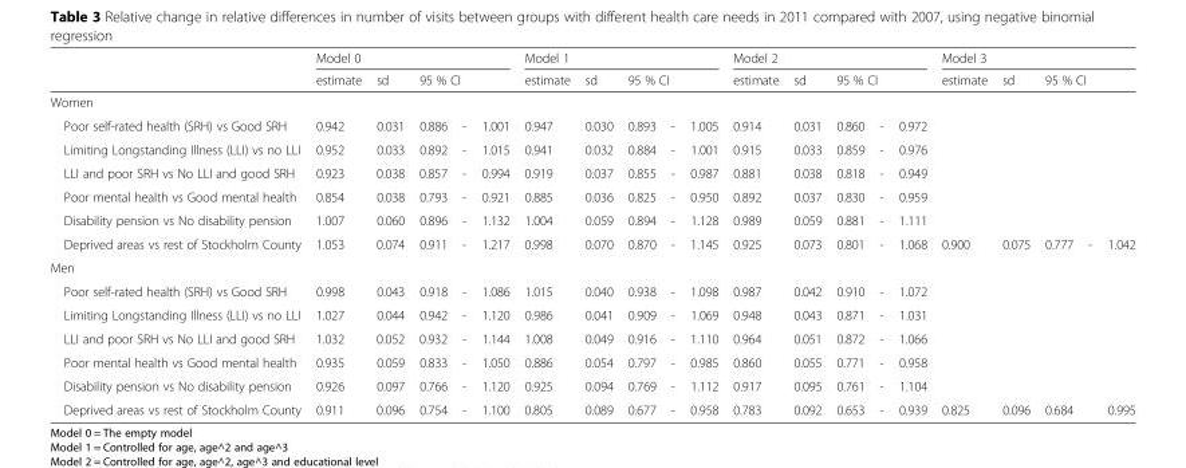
<table><thead><tr><td rowspan="3">Women</td><td colspan="5">Model 0</td><td colspan="5">Model 1</td><td colspan="5">Model 2</td><td colspan="5">Model 3</td></tr><tr><td rowspan="2">estimate</td><td rowspan="2">sd</td><td colspan="3">95 % CI</td><td rowspan="2">estimate</td><td rowspan="2">sd</td><td colspan="3">95 % CI</td><td rowspan="2">estimate</td><td rowspan="2">sd</td><td colspan="3">95 % CI</td><td rowspan="2">estimate</td><td rowspan="2">sd</td><td colspan="3">95 % CI</td></tr><tr><td></td><td></td><td></td><td></td><td></td><td></td><td></td><td></td><td></td><td></td><td></td><td></td></tr></thead><tbody><tr><td>Poor self-rated health (SRH) vs Good SRH</td><td>0.942</td><td>0.031</td><td>0.886</td><td>-</td><td>1.001</td><td>0.947</td><td>0.030</td><td>0.893</td><td>-</td><td>1.005</td><td>0.914</td><td>0.031</td><td>0.860</td><td>-</td><td>0.972</td><td></td><td></td><td></td><td></td><td></td></tr><tr><td>Limiting Longstanding Illness (LLI) vs no LLI</td><td>0.952</td><td>0.033</td><td>0.892</td><td>-</td><td>1.015</td><td>0.941</td><td>0.032</td><td>0.884</td><td>-</td><td>1.001</td><td>0.915</td><td>0.033</td><td>0.859</td><td>-</td><td>0.976</td><td></td><td></td><td></td><td></td><td></td></tr><tr><td>LLI and poor SRH vs No LLI and good SRH</td><td>0.923</td><td>0.038</td><td>0.857</td><td>-</td><td>0.994</td><td>0.919</td><td>0.037</td><td>0.855</td><td>-</td><td>0.987</td><td>0.881</td><td>0.038</td><td>0.818</td><td>-</td><td>0.949</td><td></td><td></td><td></td><td></td><td></td></tr><tr><td>Poor mental health vs Good mental health</td><td>0.854</td><td>0.038</td><td>0.793</td><td>-</td><td>0.921</td><td>0.885</td><td>0.036</td><td>0.825</td><td>-</td><td>0.950</td><td>0.892</td><td>0.037</td><td>0.830</td><td>-</td><td>0.959</td><td></td><td></td><td></td><td></td><td></td></tr><tr><td>Disability pension vs No disability pension</td><td>1.007</td><td>0.060</td><td>0.896</td><td>-</td><td>1.132</td><td>1.004</td><td>0.059</td><td>0.894</td><td>-</td><td>1.128</td><td>0.989</td><td>0.059</td><td>0.881</td><td>-</td><td>1.111</td><td></td><td></td><td></td><td></td><td></td></tr><tr><td>Deprived areas vs rest of Stockholm County</td><td>1.053</td><td>0.074</td><td>0.911</td><td>-</td><td>1.217</td><td>0.998</td><td>0.070</td><td>0.870</td><td>-</td><td>1.145</td><td>0.925</td><td>0.073</td><td>0.801</td><td>-</td><td>1.068</td><td>0.900</td><td>0.075</td><td>0.777</td><td>-</td><td>1.042</td></tr><tr><td colspan="21">Men</td></tr><tr><td>Poor self-rated health (SRH) vs Good SRH</td><td>0.998</td><td>0.043</td><td>0.918</td><td>-</td><td>1.086</td><td>1.015</td><td>0.040</td><td>0.938</td><td>-</td><td>1.098</td><td>0.987</td><td>0.042</td><td>0.910</td><td>-</td><td>1.072</td><td></td><td></td><td></td><td></td><td></td></tr><tr><td>Limiting Longstanding Illness (LLI) vs no LLI</td><td>1.027</td><td>0.044</td><td>0.942</td><td>-</td><td>1.120</td><td>0.986</td><td>0.041</td><td>0.909</td><td>-</td><td>1.069</td><td>0.948</td><td>0.043</td><td>0.871</td><td>-</td><td>1.031</td><td></td><td></td><td></td><td></td><td></td></tr><tr><td>LLI and poor SRH vs No LLI and good SRH</td><td>1.032</td><td>0.052</td><td>0.932</td><td>-</td><td>1.144</td><td>1.008</td><td>0.049</td><td>0.916</td><td>-</td><td>1.110</td><td>0.964</td><td>0.051</td><td>0.872</td><td>-</td><td>1.066</td><td></td><td></td><td></td><td></td><td></td></tr><tr><td>Poor mental health vs Good mental health</td><td>0.935</td><td>0.059</td><td>0.833</td><td>-</td><td>1.050</td><td>0.886</td><td>0.054</td><td>0.797</td><td>-</td><td>0.985</td><td>0.860</td><td>0.055</td><td>0.771</td><td>-</td><td>0.958</td><td></td><td></td><td></td><td></td><td></td></tr><tr><td>Disability pension vs No disability pension</td><td>0.926</td><td>0.097</td><td>0.766</td><td>-</td><td>1.120</td><td>0.925</td><td>0.094</td><td>0.769</td><td>-</td><td>1.112</td><td>0.917</td><td>0.095</td><td>0.761</td><td>-</td><td>1.104</td><td></td><td></td><td></td><td></td><td></td></tr><tr><td>Deprived areas vs rest of Stockholm County</td><td>0.911</td><td>0.096</td><td>0.754</td><td>-</td><td>1.100</td><td>0.805</td><td>0.089</td><td>0.677</td><td>-</td><td>0.958</td><td>0.783</td><td>0.092</td><td>0.653</td><td>-</td><td>0.939</td><td>0.825</td><td>0.096</td><td>0.684</td><td></td><td>0.995</td></tr></tbody></table>